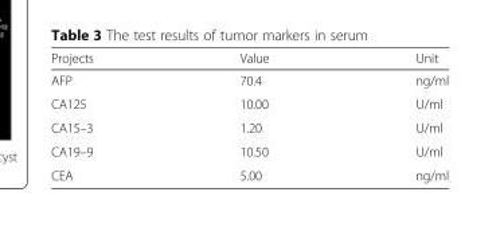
<table><thead><tr><td>Projects</td><td>Value</td><td>Unit</td></tr></thead><tbody><tr><td>AFP</td><td>70.4</td><td>ng/ml</td></tr><tr><td>CA125</td><td>10.00</td><td>U/ml</td></tr><tr><td>CA15–3</td><td>1.20</td><td>U/ml</td></tr><tr><td>CA19–9</td><td>10.50</td><td>U/ml</td></tr><tr><td>CEA</td><td>5.00</td><td>ng/ml</td></tr></tbody></table>